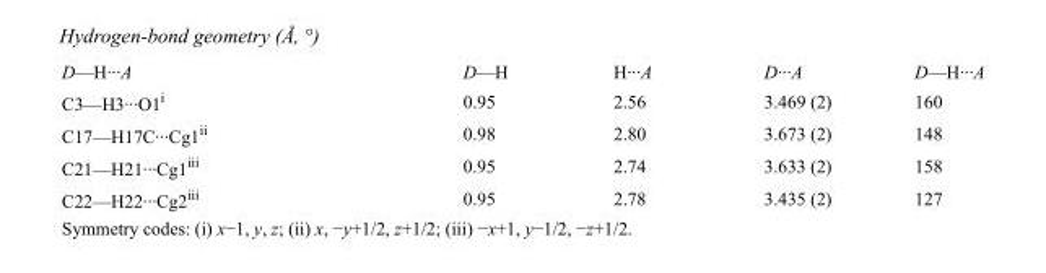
<table><tbody><tr><td>D—H···A</td><td>D—H</td><td>H···A</td><td>D···A</td><td>D—H···A</td></tr><tr><td>C3—H3···O1<sup>i</sup></td><td>0.95</td><td>2.56</td><td>3.469 (2)</td><td>160</td></tr><tr><td>C17—H17C···Cg1<sup>ii</sup></td><td>0.98</td><td>2.80</td><td>3.673 (2)</td><td>148</td></tr><tr><td>C21—H21···Cg1<sup>iii</sup></td><td>0.95</td><td>2.74</td><td>3.633 (2)</td><td>158</td></tr><tr><td>C22—H22···Cg2<sup>iii</sup></td><td>0.95</td><td>2.78</td><td>3.435 (2)</td><td>127</td></tr></tbody></table>